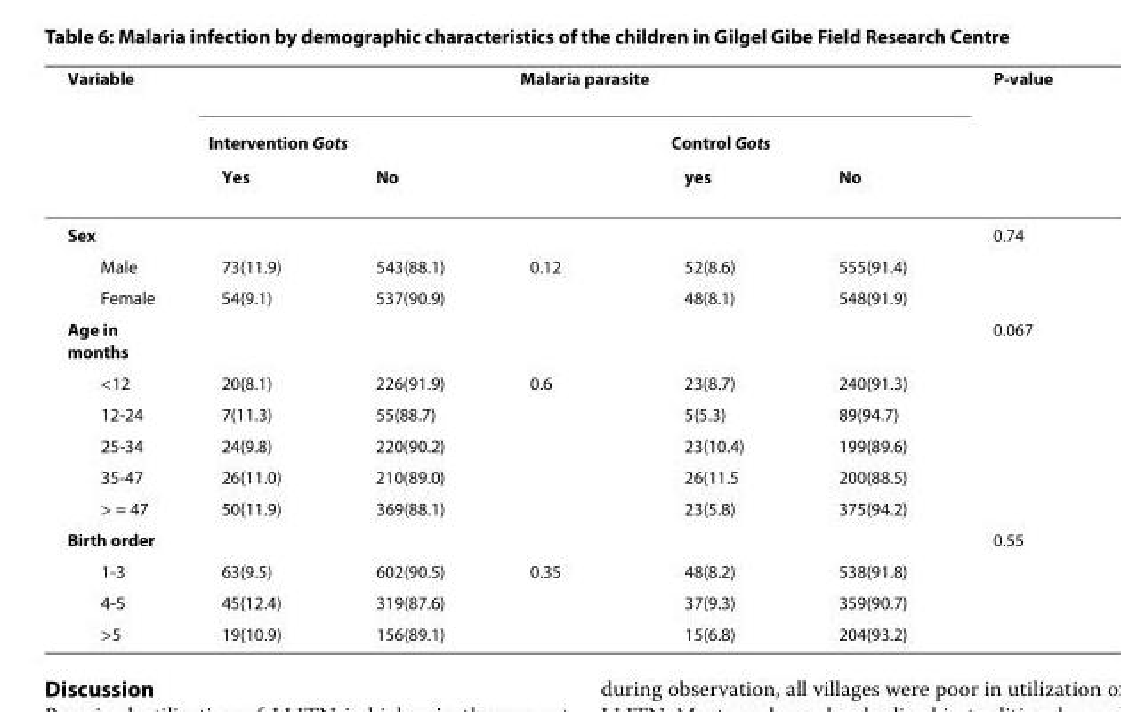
<table><thead><tr><td rowspan="3">Variable</td><td colspan="5">Malaria parasite</td><td rowspan="3">P-value</td></tr><tr><td colspan="3">Intervention Gots</td><td colspan="2">Control Gots</td></tr><tr><td>Yes</td><td>No</td><td></td><td>yes</td><td>No</td></tr></thead><tbody><tr><td>Sex</td><td></td><td></td><td></td><td></td><td></td><td>0.74</td></tr><tr><td>Male</td><td>73(11.9)</td><td>543(88.1)</td><td>0.12</td><td>52(8.6)</td><td>555(91.4)</td><td></td></tr><tr><td>Female</td><td>54(9.1)</td><td>537(90.9)</td><td></td><td>48(8.1)</td><td>548(91.9)</td><td></td></tr><tr><td>Age in months</td><td></td><td></td><td></td><td></td><td></td><td>0.067</td></tr><tr><td>&lt;12</td><td>20(8.1)</td><td>226(91.9)</td><td>0.6</td><td>23(8.7)</td><td>240(91.3)</td><td></td></tr><tr><td>12-24</td><td>7(11.3)</td><td>55(88.7)</td><td></td><td>5(5.3)</td><td>89(94.7)</td><td></td></tr><tr><td>25-34</td><td>24(9.8)</td><td>220(90.2)</td><td></td><td>23(10.4)</td><td>199(89.6)</td><td></td></tr><tr><td>35-47</td><td>26(11.0)</td><td>210(89.0)</td><td></td><td>26(11.5</td><td>200(88.5)</td><td></td></tr><tr><td>&gt; = 47</td><td>50(11.9)</td><td>369(88.1)</td><td></td><td>23(5.8)</td><td>375(94.2)</td><td></td></tr><tr><td>Birth order</td><td></td><td></td><td></td><td></td><td></td><td>0.55</td></tr><tr><td>1-3</td><td>63(9.5)</td><td>602(90.5)</td><td>0.35</td><td>48(8.2)</td><td>538(91.8)</td><td></td></tr><tr><td>4-5</td><td>45(12.4)</td><td>319(87.6)</td><td></td><td>37(9.3)</td><td>359(90.7)</td><td></td></tr><tr><td>&gt;5</td><td>19(10.9)</td><td>156(89.1)</td><td></td><td>15(6.8)</td><td>204(93.2)</td><td></td></tr></tbody></table>